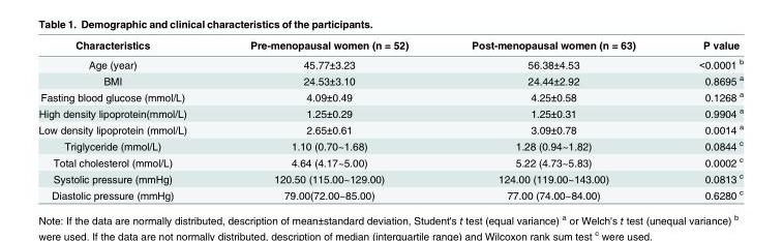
<table><thead><tr><td>Characteristics</td><td>Pre-menopausal women (n = 52)</td><td>Post-menopausal women (n = 63)</td><td>P value</td></tr></thead><tbody><tr><td>Age (year)</td><td>45.77±3.23</td><td>56.38±4.53</td><td>&lt;0.0001 <sup>b</sup></td></tr><tr><td>BMI</td><td>24.53±3.10</td><td>24.44±2.92</td><td>0.8695 <sup>a</sup></td></tr><tr><td>Fasting blood glucose (mmol/L)</td><td>4.09±0.49</td><td>4.25±0.58</td><td>0.1268 <sup>a</sup></td></tr><tr><td>High density lipoprotein(mmol/L)</td><td>1.25±0.29</td><td>1.25±0.31</td><td>0.9904 <sup>a</sup></td></tr><tr><td>Low density lipoprotein (mmol/L)</td><td>2.65±0.61</td><td>3.09±0.78</td><td>0.0014 <sup>a</sup></td></tr><tr><td>Triglyceride (mmol/L)</td><td>1.10 (0.70~1.68)</td><td>1.28 (0.94~1.82)</td><td>0.0844 <sup>c</sup></td></tr><tr><td>Total cholesterol (mmol/L)</td><td>4.64 (4.17~5.00)</td><td>5.22 (4.73~5.83)</td><td>0.0002 <sup>c</sup></td></tr><tr><td>Systolic pressure (mmHg)</td><td>120.50 (115.00~129.00)</td><td>124.00 (119.00~143.00)</td><td>0.0813 <sup>c</sup></td></tr><tr><td>Diastolic pressure (mmHg)</td><td>79.00(72.00~85.00)</td><td>77.00 (74.00~84.00)</td><td>0.6280 <sup>c</sup></td></tr></tbody></table>